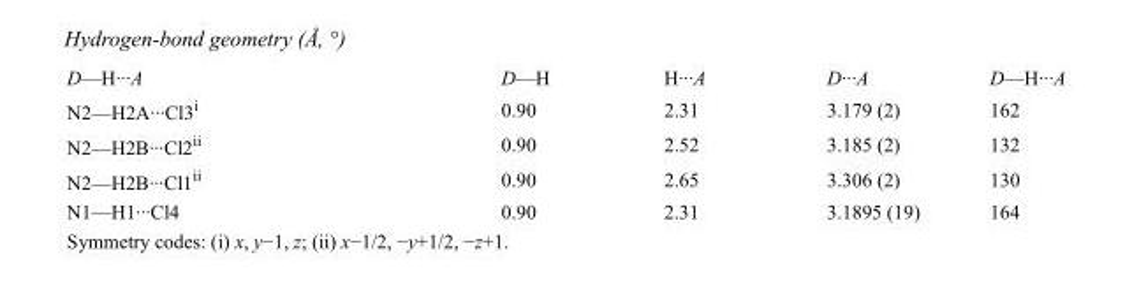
<table><tbody><tr><td>D—H···A</td><td>D—H</td><td>H···A</td><td>D···A</td><td>D—H···A</td></tr><tr><td>N2—H2A···Cl3<sup>i</sup></td><td>0.90</td><td>2.31</td><td>3.179 (2)</td><td>162</td></tr><tr><td>N2—H2B···Cl2<sup>ii</sup></td><td>0.90</td><td>2.52</td><td>3.185 (2)</td><td>132</td></tr><tr><td>N2—H2B···Cl1<sup>ii</sup></td><td>0.90</td><td>2.65</td><td>3.306 (2)</td><td>130</td></tr><tr><td>N1—H1···Cl4</td><td>0.90</td><td>2.31</td><td>3.1895 (19)</td><td>164</td></tr></tbody></table>